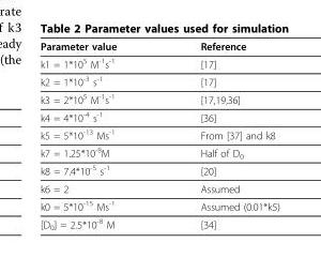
<table><thead><tr><td>Parameter value</td><td>Reference</td></tr></thead><tbody><tr><td>k1 = 1*10<sup>5</sup> M<sup>-1</sup>s<sup>-1</sup></td><td>[17]</td></tr><tr><td>k2 = 1*10<sup>-3</sup> s<sup>-1</sup></td><td>[17]</td></tr><tr><td>k3 = 2*10<sup>5</sup> M<sup>-1</sup>s<sup>-1</sup></td><td>[17,19,36]</td></tr><tr><td>k4 = 4*10<sup>-4</sup> s<sup>-1</sup></td><td>[36]</td></tr><tr><td>k5 = 5*10<sup>-13</sup> Ms<sup>-1</sup></td><td>From [37] and k8</td></tr><tr><td>k7 = 1.25*10<sup>-8</sup>M</td><td>Half of D<sub>0</sub></td></tr><tr><td>k8 = 7.4*10<sup>-5</sup> s<sup>-1</sup></td><td>[20]</td></tr><tr><td>k6 = 2</td><td>Assumed</td></tr><tr><td>k0 = 5*10<sup>-15</sup> Ms<sup>-1</sup></td><td>Assumed (0.01*k5)</td></tr><tr><td>[D<sub>0</sub>] = 2.5*10<sup>-8</sup> M</td><td>[34]</td></tr></tbody></table>